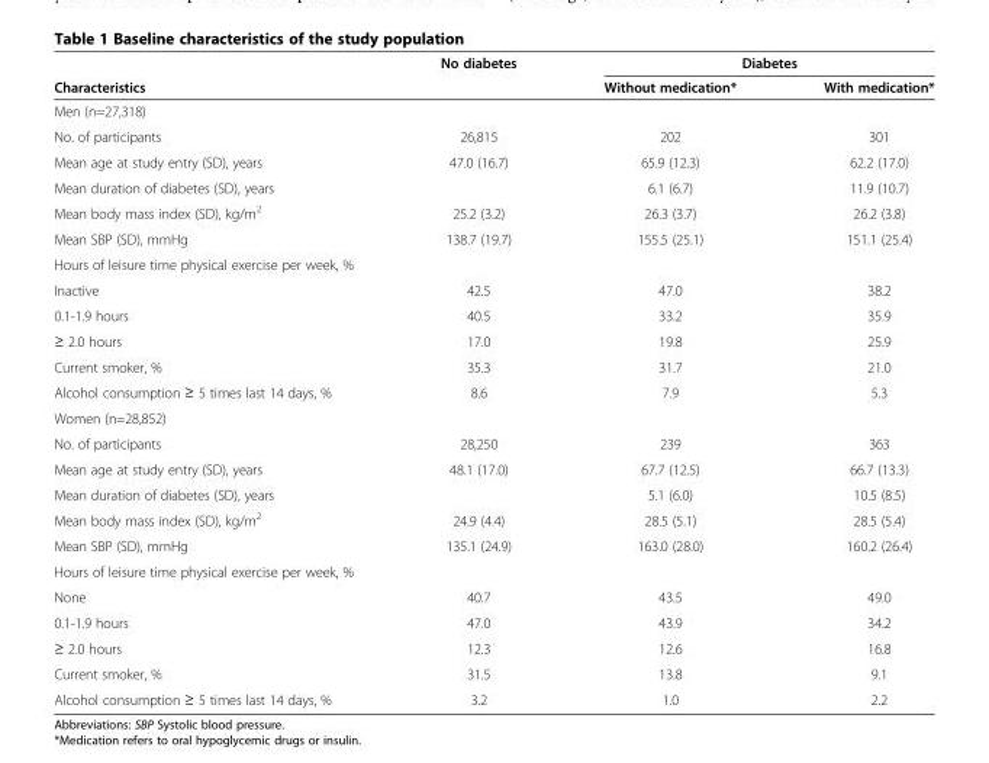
<table><thead><tr><td rowspan="2">Characteristics</td><td rowspan="2">No diabetes</td><td colspan="2">Diabetes</td></tr><tr><td>Without medication*</td><td>With medication*</td></tr></thead><tbody><tr><td colspan="4">Men (n=27,318)</td></tr><tr><td>No. of participants</td><td>26,815</td><td>202</td><td>301</td></tr><tr><td>Mean age at study entry (SD), years</td><td>47.0 (16.7)</td><td>65.9 (12.3)</td><td>62.2 (17.0)</td></tr><tr><td>Mean duration of diabetes (SD), years</td><td></td><td>6.1 (6.7)</td><td>11.9 (10.7)</td></tr><tr><td>Mean body mass index (SD), kg/m<sup>2</sup></td><td>25.2 (3.2)</td><td>26.3 (3.7)</td><td>26.2 (3.8)</td></tr><tr><td>Mean SBP (SD), mmHg</td><td>138.7 (19.7)</td><td>155.5 (25.1)</td><td>151.1 (25.4)</td></tr><tr><td colspan="4">Hours of leisure time physical exercise per week, %</td></tr><tr><td>Inactive</td><td>42.5</td><td>47.0</td><td>38.2</td></tr><tr><td>0.1-1.9 hours</td><td>40.5</td><td>33.2</td><td>35.9</td></tr><tr><td>≥ 2.0 hours</td><td>17.0</td><td>19.8</td><td>25.9</td></tr><tr><td>Current smoker, %</td><td>35.3</td><td>31.7</td><td>21.0</td></tr><tr><td>Alcohol consumption ≥ 5 times last 14 days, %</td><td>8.6</td><td>7.9</td><td>5.3</td></tr><tr><td colspan="4">Women (n=28,852)</td></tr><tr><td>No. of participants</td><td>28,250</td><td>239</td><td>363</td></tr><tr><td>Mean age at study entry (SD), years</td><td>48.1 (17.0)</td><td>67.7 (12.5)</td><td>66.7 (13.3)</td></tr><tr><td>Mean duration of diabetes (SD), years</td><td></td><td>5.1 (6.0)</td><td>10.5 (8.5)</td></tr><tr><td>Mean body mass index (SD), kg/m<sup>2</sup></td><td>24.9 (4.4)</td><td>28.5 (5.1)</td><td>28.5 (5.4)</td></tr><tr><td>Mean SBP (SD), mmHg</td><td>135.1 (24.9)</td><td>163.0 (28.0)</td><td>160.2 (26.4)</td></tr><tr><td colspan="4">Hours of leisure time physical exercise per week, %</td></tr><tr><td>None</td><td>40.7</td><td>43.5</td><td>49.0</td></tr><tr><td>0.1-1.9 hours</td><td>47.0</td><td>43.9</td><td>34.2</td></tr><tr><td>≥ 2.0 hours</td><td>12.3</td><td>12.6</td><td>16.8</td></tr><tr><td>Current smoker, %</td><td>31.5</td><td>13.8</td><td>9.1</td></tr><tr><td>Alcohol consumption ≥ 5 times last 14 days, %</td><td>3.2</td><td>1.0</td><td>2.2</td></tr></tbody></table>